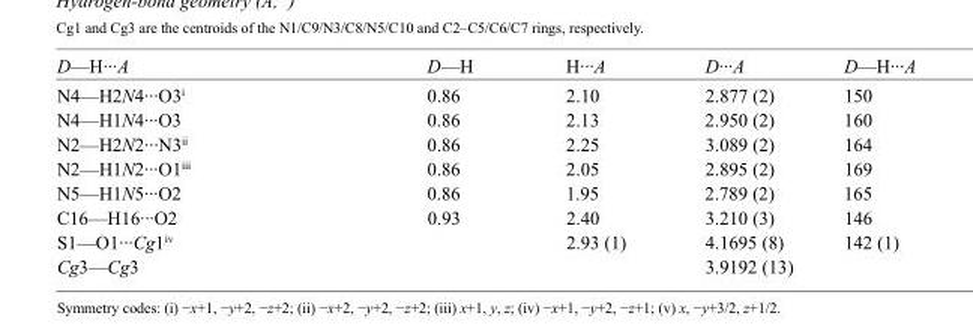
<table><tbody><tr><td>D—H···A</td><td>D—H</td><td>H···A</td><td>D···A</td><td>D—H···A</td></tr><tr><td>N4—H2N4···O3<sup>i</sup></td><td>0.86</td><td>2.10</td><td>2.877 (2)</td><td>150</td></tr><tr><td>N4—H1N4···O3</td><td>0.86</td><td>2.13</td><td>2.950 (2)</td><td>160</td></tr><tr><td>N2—H2N2···N3<sup>ii</sup></td><td>0.86</td><td>2.25</td><td>3.089 (2)</td><td>164</td></tr><tr><td>N2—H1N2···O1<sup>iii</sup></td><td>0.86</td><td>2.05</td><td>2.895 (2)</td><td>169</td></tr><tr><td>N5—H1N5···O2</td><td>0.86</td><td>1.95</td><td>2.789 (2)</td><td>165</td></tr><tr><td>C16—H16···O2</td><td>0.93</td><td>2.40</td><td>3.210 (3)</td><td>146</td></tr><tr><td>S1—O1···Cg1<sup>iv</sup></td><td></td><td>2.93 (1)</td><td>4.1695 (8)</td><td>142 (1)</td></tr><tr><td>Cg3—Cg3</td><td></td><td></td><td>3.9192 (13)</td><td></td></tr></tbody></table>